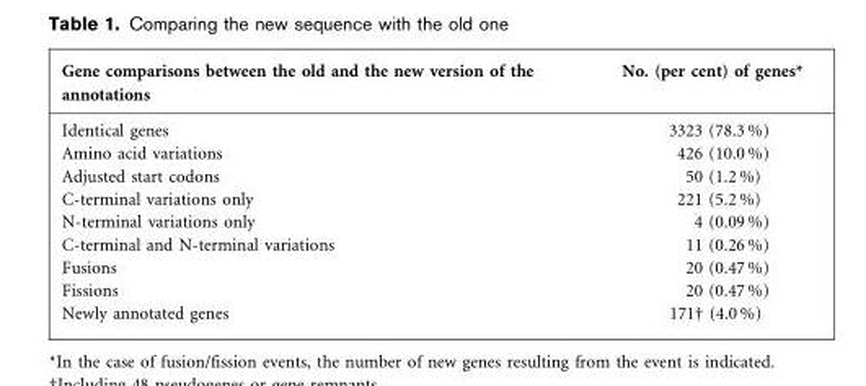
<table><thead><tr><td>Gene comparisons between the old and the new version of the annotations</td><td>No. (per cent) of genes*</td></tr></thead><tbody><tr><td>Identical genes</td><td>3323 (78.3 %)</td></tr><tr><td>Amino acid variations</td><td>426 (10.0 %)</td></tr><tr><td>Adjusted start codons</td><td>50 (1.2 %)</td></tr><tr><td>C-terminal variations only</td><td>221 (5.2 %)</td></tr><tr><td>N-terminal variations only</td><td>4 (0.09 %)</td></tr><tr><td>C-terminal and N-terminal variations</td><td>11 (0.26 %)</td></tr><tr><td>Fusions</td><td>20 (0.47 %)</td></tr><tr><td>Fissions</td><td>20 (0.47 %)</td></tr><tr><td>Newly annotated genes</td><td>171† (4.0 %)</td></tr></tbody></table>